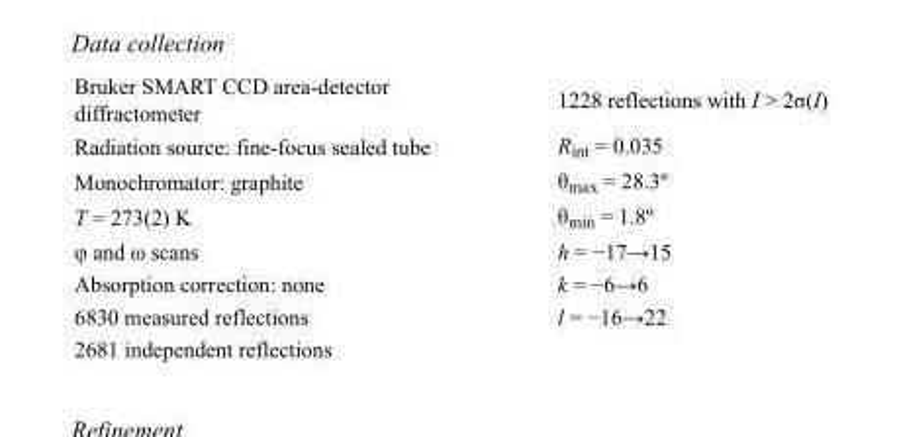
<table><tbody><tr><td>Bruker SMART CCD area-detector diffractometer</td><td>1228 reflections with I &gt; 2σ(I)</td></tr><tr><td>Radiation source: fine-focus sealed tube</td><td>R<sub>int</sub> = 0.035</td></tr><tr><td>Monochromator: graphite</td><td>θ<sub>max</sub> = 28.3º</td></tr><tr><td>T = 273(2) K</td><td>θ<sub>min</sub> = 1.8º</td></tr><tr><td>φ and ω scans</td><td>h = −17→15</td></tr><tr><td>Absorption correction: none</td><td>k = −6→6</td></tr><tr><td>6830 measured reflections</td><td>l = −16→22</td></tr><tr><td>2681 independent reflections</td><td></td></tr></tbody></table>